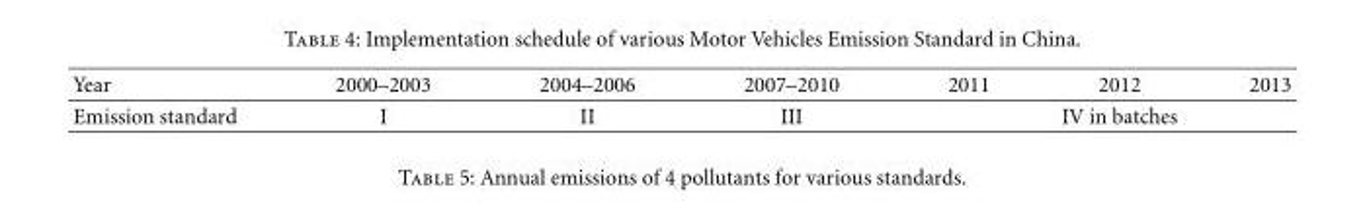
<table><thead><tr><td>Year</td><td>2000–2003</td><td>2004–2006</td><td>2007–2010</td><td>2011</td><td>2012</td><td>2013</td></tr></thead><tbody><tr><td>Emission standard</td><td>I</td><td>II</td><td>III</td><td colspan="3">IV in batches</td></tr></tbody></table>